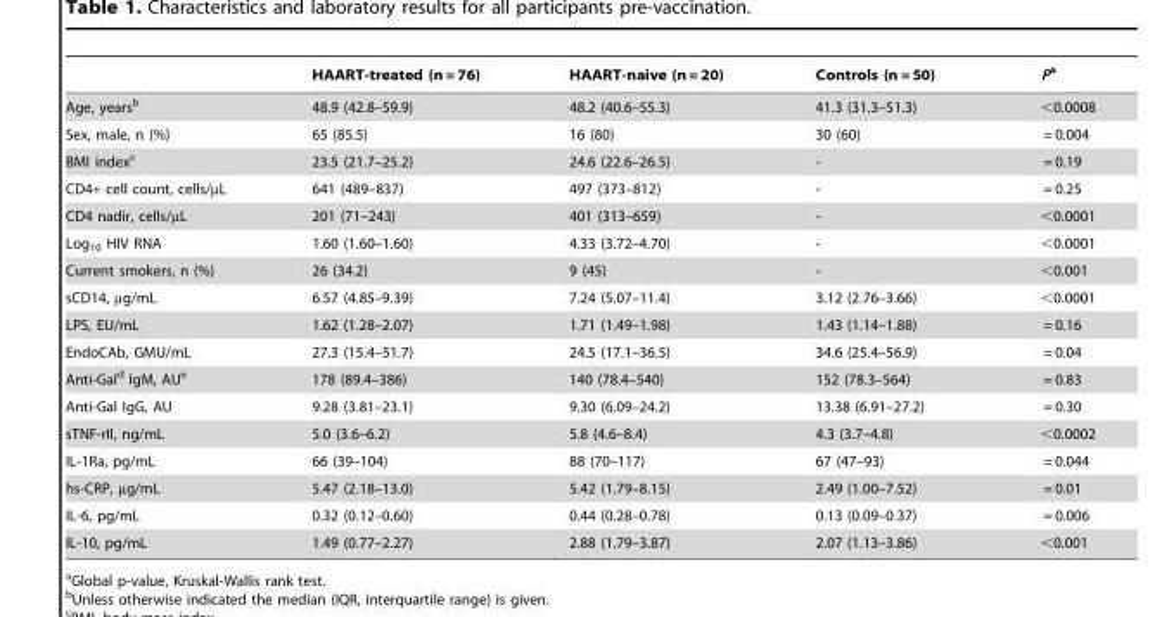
<table><thead><tr><td></td><td>HAART-treated (n = 76)</td><td>HAART-naive (n = 20)</td><td>Controls (n = 50)</td><td>Pa</td></tr></thead><tbody><tr><td>Age, years<sup>b</sup></td><td>48.9 (42.8–59.9)</td><td>48.2 (40.6–55.3)</td><td>41.3 (31.3–51.3)</td><td>&lt;0.0008</td></tr><tr><td>Sex, male, n (%)</td><td>65 (85.5)</td><td>16 (80)</td><td>30 (60)</td><td>= 0.004</td></tr><tr><td>BMI index<sup>c</sup></td><td>23.5 (21.7–25.2)</td><td>24.6 (22.6–26.5)</td><td>-</td><td>= 0.19</td></tr><tr><td>CD4+ cell count, cells/µL</td><td>641 (489–837)</td><td>497 (373–812)</td><td>-</td><td>= 0.25</td></tr><tr><td>CD4 nadir, cells/µL</td><td>201 (71–243)</td><td>401 (313–659)</td><td>-</td><td>&lt;0.0001</td></tr><tr><td>Log<sub>10</sub> HIV RNA</td><td>1.60 (1.60–1.60)</td><td>4.33 (3.72–4.70)</td><td>-</td><td>&lt;0.0001</td></tr><tr><td>Current smokers, n (%)</td><td>26 (34.2)</td><td>9 (45)</td><td>-</td><td>&lt;0.001</td></tr><tr><td>sCD14, µg/mL</td><td>6.57 (4.85–9.39)</td><td>7.24 (5.07–11.4)</td><td>3.12 (2.76–3.66)</td><td>&lt;0.0001</td></tr><tr><td>LPS, EU/mL</td><td>1.62 (1.28–2.07)</td><td>1.71 (1.49–1.98)</td><td>1.43 (1.14–1.88)</td><td>= 0.16</td></tr><tr><td>EndoCAb, GMU/mL</td><td>27.3 (15.4–51.7)</td><td>24.5 (17.1–36.5)</td><td>34.6 (25.4–56.9)</td><td>= 0.04</td></tr><tr><td>Anti-Gal<sup>d</sup> IgM, AU<sup>e</sup></td><td>178 (89.4–386)</td><td>140 (78.4–540)</td><td>152 (78.3–564)</td><td>= 0.83</td></tr><tr><td>Anti-Gal IgG, AU</td><td>9.28 (3.81–23.1)</td><td>9.30 (6.09–24.2)</td><td>13.38 (6.91–27.2)</td><td>= 0.30</td></tr><tr><td>sTNF-rII, ng/mL</td><td>5.0 (3.6–6.2)</td><td>5.8 (4.6–8.4)</td><td>4.3 (3.7–4.8)</td><td>&lt;0.0002</td></tr><tr><td>IL-1Ra, pg/mL</td><td>66 (39–104)</td><td>88 (70–117)</td><td>67 (47–93)</td><td>= 0.044</td></tr><tr><td>hs-CRP, µg/mL</td><td>5.47 (2.18–13.0)</td><td>5.42 (1.79–8.15)</td><td>2.49 (1.00–7.52)</td><td>= 0.01</td></tr><tr><td>IL-6, pg/mL</td><td>0.32 (0.12–0.60)</td><td>0.44 (0.28–0.78)</td><td>0.13 (0.09–0.37)</td><td>= 0.006</td></tr><tr><td>IL-10, pg/mL</td><td>1.49 (0.77–2.27)</td><td>2.88 (1.79–3.87)</td><td>2.07 (1.13–3.86)</td><td>&lt;0.001</td></tr></tbody></table>